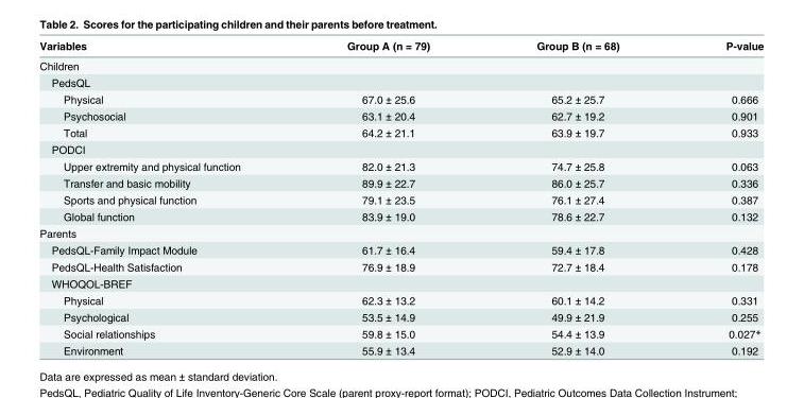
<table><thead><tr><td>Variables</td><td>Group A (n = 79)</td><td>Group B (n = 68)</td><td>P-value</td></tr></thead><tbody><tr><td colspan="4">Children</td></tr><tr><td colspan="4">PedsQL</td></tr><tr><td>Physical</td><td>67.0 ± 25.6</td><td>65.2 ± 25.7</td><td>0.666</td></tr><tr><td>Psychosocial</td><td>63.1 ± 20.4</td><td>62.7 ± 19.2</td><td>0.901</td></tr><tr><td>Total</td><td>64.2 ± 21.1</td><td>63.9 ± 19.7</td><td>0.933</td></tr><tr><td colspan="4">PODCI</td></tr><tr><td>Upper extremity and physical function</td><td>82.0 ± 21.3</td><td>74.7 ± 25.8</td><td>0.063</td></tr><tr><td>Transfer and basic mobility</td><td>89.9 ± 22.7</td><td>86.0 ± 25.7</td><td>0.336</td></tr><tr><td>Sports and physical function</td><td>79.1 ± 23.5</td><td>76.1 ± 27.4</td><td>0.387</td></tr><tr><td>Global function</td><td>83.9 ± 19.0</td><td>78.6 ± 22.7</td><td>0.132</td></tr><tr><td colspan="4">Parents</td></tr><tr><td>PedsQL-Family Impact Module</td><td>61.7 ± 16.4</td><td>59.4 ± 17.8</td><td>0.428</td></tr><tr><td>PedsQL-Health Satisfaction</td><td>76.9 ± 18.9</td><td>72.7 ± 18.4</td><td>0.178</td></tr><tr><td colspan="4">WHOQOL-BREF</td></tr><tr><td>Physical</td><td>62.3 ± 13.2</td><td>60.1 ± 14.2</td><td>0.331</td></tr><tr><td>Psychological</td><td>53.5 ± 14.9</td><td>49.9 ± 21.9</td><td>0.255</td></tr><tr><td>Social relationships</td><td>59.8 ± 15.0</td><td>54.4 ± 13.9</td><td>0.027*</td></tr><tr><td>Environment</td><td>55.9 ± 13.4</td><td>52.9 ± 14.0</td><td>0.192</td></tr></tbody></table>